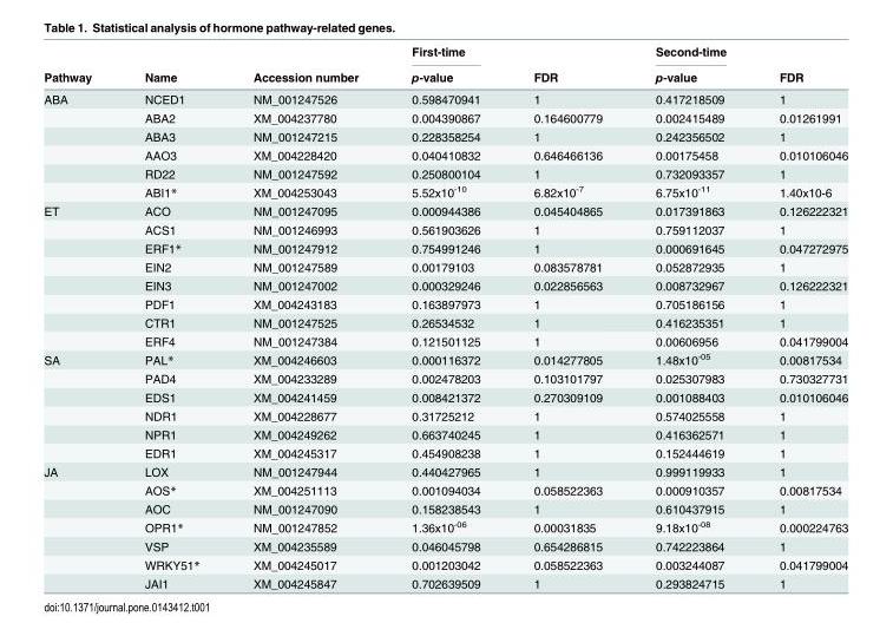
<table><thead><tr><td rowspan="2">Pathway</td><td rowspan="2">Name</td><td rowspan="2">Accession number</td><td rowspan="2">First-time p-value</td><td rowspan="2">FDR</td><td rowspan="2">Second-time p-value</td><td rowspan="2">FDR</td></tr><tr></tr></thead><tbody><tr><td rowspan="6">ABA</td><td>NCED1</td><td>NM_001247526</td><td>0.598470941</td><td>1</td><td>0.417218509</td><td>1</td></tr><tr><td>ABA2</td><td>XM_004237780</td><td>0.004390867</td><td>0.164600779</td><td>0.002415489</td><td>0.01261991</td></tr><tr><td>ABA3</td><td>NM_001247215</td><td>0.228358254</td><td>1</td><td>0.242356502</td><td>1</td></tr><tr><td>AAO3</td><td>XM_004228420</td><td>0.040410832</td><td>0.646466136</td><td>0.00175458</td><td>0.010106046</td></tr><tr><td>RD22</td><td>NM_001247592</td><td>0.250800104</td><td>1</td><td>0.732093357</td><td>1</td></tr><tr><td>ABI1*</td><td>XM_004253043</td><td>5.52x10<sup>-10</sup></td><td>6.82x10<sup>-7</sup></td><td>6.75x10<sup>-11</sup></td><td>1.40x10-6</td></tr><tr><td rowspan="8">ET</td><td>ACO</td><td>NM_001247095</td><td>0.000944386</td><td>0.045404865</td><td>0.017391863</td><td>0.126222321</td></tr><tr><td>ACS1</td><td>NM_001246993</td><td>0.561903626</td><td>1</td><td>0.759112037</td><td>1</td></tr><tr><td>ERF1*</td><td>NM_001247912</td><td>0.754991246</td><td>1</td><td>0.000691645</td><td>0.047272975</td></tr><tr><td>EIN2</td><td>NM_001247589</td><td>0.00179103</td><td>0.083578781</td><td>0.052872935</td><td>1</td></tr><tr><td>EIN3</td><td>NM_001247002</td><td>0.000329246</td><td>0.022856563</td><td>0.008732967</td><td>0.126222321</td></tr><tr><td>PDF1</td><td>XM_004243183</td><td>0.163897973</td><td>1</td><td>0.705186156</td><td>1</td></tr><tr><td>CTR1</td><td>NM_001247525</td><td>0.26534532</td><td>1</td><td>0.416235351</td><td>1</td></tr><tr><td>ERF4</td><td>NM_001247384</td><td>0.121501125</td><td>1</td><td>0.00606956</td><td>0.041799004</td></tr><tr><td rowspan="6">SA</td><td>PAL*</td><td>XM_004246603</td><td>0.000116372</td><td>0.014277805</td><td>1.48x10<sup>-05</sup></td><td>0.00817534</td></tr><tr><td>PAD4</td><td>XM_004233289</td><td>0.002478203</td><td>0.103101797</td><td>0.025307983</td><td>0.730327731</td></tr><tr><td>EDS1</td><td>XM_004241459</td><td>0.008421372</td><td>0.270309109</td><td>0.001088403</td><td>0.010106046</td></tr><tr><td>NDR1</td><td>XM_004228677</td><td>0.31725212</td><td>1</td><td>0.574025558</td><td>1</td></tr><tr><td>NPR1</td><td>XM_004249262</td><td>0.663740245</td><td>1</td><td>0.416362571</td><td>1</td></tr><tr><td>EDR1</td><td>XM_004245317</td><td>0.454908238</td><td>1</td><td>0.152444619</td><td>1</td></tr><tr><td rowspan="7">JA</td><td>LOX</td><td>NM_001247944</td><td>0.440427965</td><td>1</td><td>0.999119933</td><td>1</td></tr><tr><td>AOS*</td><td>XM_004251113</td><td>0.001094034</td><td>0.058522363</td><td>0.000910357</td><td>0.00817534</td></tr><tr><td>AOC</td><td>NM_001247090</td><td>0.158238543</td><td>1</td><td>0.610437915</td><td>1</td></tr><tr><td>OPR1*</td><td>NM_001247852</td><td>1.36x10<sup>-06</sup></td><td>0.00031835</td><td>9.18x10<sup>-08</sup></td><td>0.000224763</td></tr><tr><td>VSP</td><td>XM_004235589</td><td>0.046045798</td><td>0.654286815</td><td>0.742223864</td><td>1</td></tr><tr><td>WRKY51*</td><td>XM_004245017</td><td>0.001203042</td><td>0.058522363</td><td>0.003244087</td><td>0.041799004</td></tr><tr><td>JAI1</td><td>XM_004245847</td><td>0.702639509</td><td>1</td><td>0.293824715</td><td>1</td></tr></tbody></table>